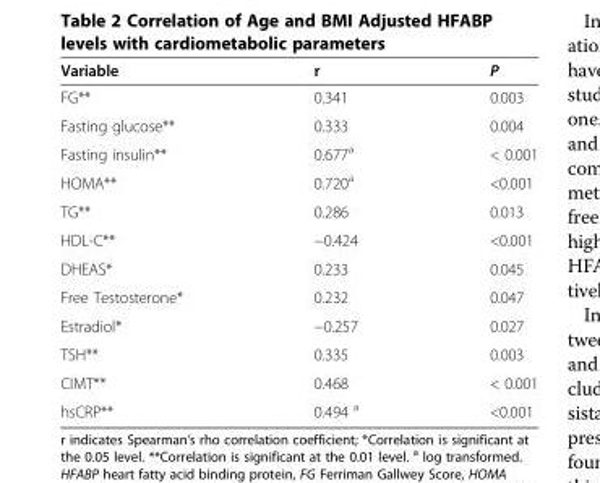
<table><thead><tr><td>Variable</td><td>r</td><td>P</td></tr></thead><tbody><tr><td>FG**</td><td>0.341</td><td>0.003</td></tr><tr><td>Fasting glucose**</td><td>0.333</td><td>0.004</td></tr><tr><td>Fasting insulin**</td><td>0.677<sup>a</sup></td><td>&lt; 0.001</td></tr><tr><td>HOMA**</td><td>0.720<sup>a</sup></td><td>&lt;0.001</td></tr><tr><td>TG**</td><td>0.286</td><td>0.013</td></tr><tr><td>HDL-C**</td><td>−0.424</td><td>&lt;0.001</td></tr><tr><td>DHEAS*</td><td>0.233</td><td>0.045</td></tr><tr><td>Free Testosterone*</td><td>0.232</td><td>0.047</td></tr><tr><td>Estradiol*</td><td>−0.257</td><td>0.027</td></tr><tr><td>TSH**</td><td>0.335</td><td>0.003</td></tr><tr><td>CIMT**</td><td>0.468</td><td>&lt; 0.001</td></tr><tr><td>hsCRP**</td><td>0.494 <sup>a</sup></td><td>&lt;0.001</td></tr></tbody></table>